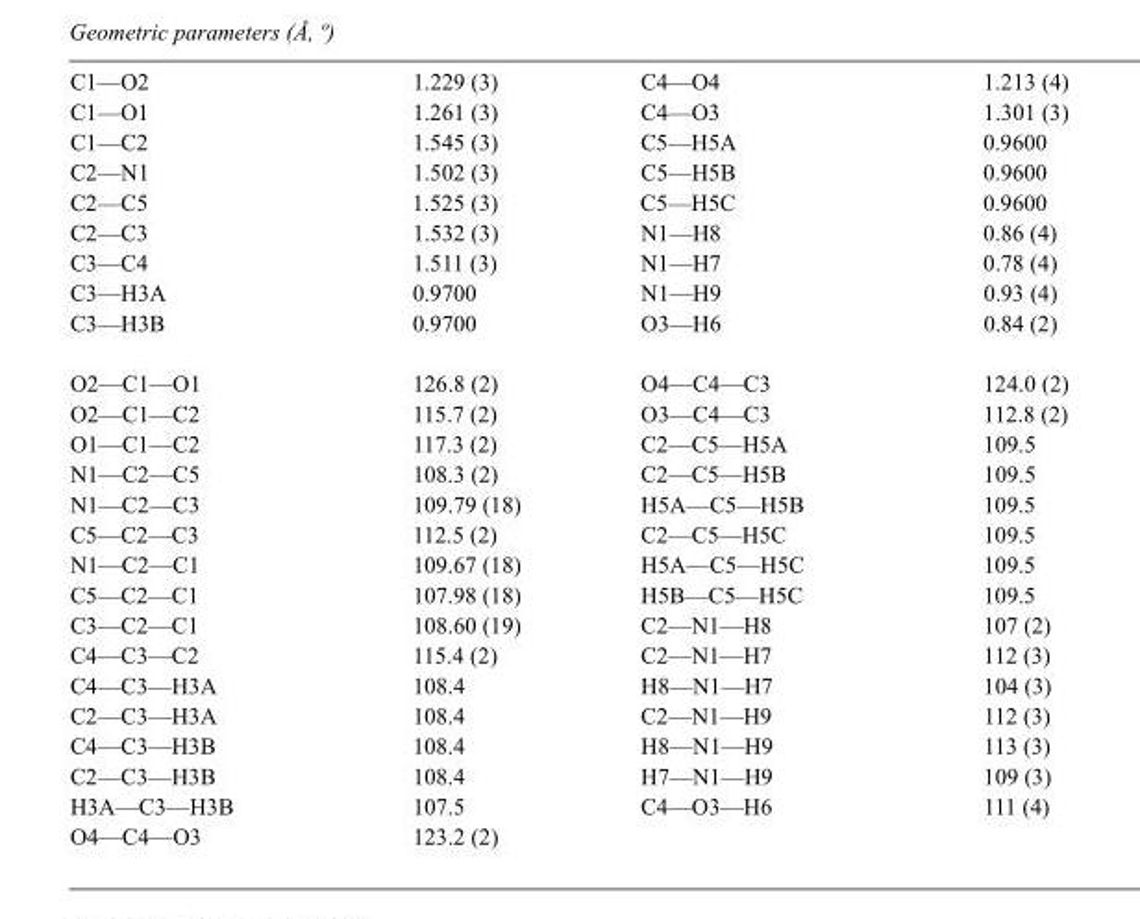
<table><tbody><tr><td>C1—O2</td><td>1.229 (3)</td><td>C4—O4</td><td>1.213 (4)</td></tr><tr><td>C1—O1</td><td>1.261 (3)</td><td>C4—O3</td><td>1.301 (3)</td></tr><tr><td>C1—C2</td><td>1.545 (3)</td><td>C5—H5A</td><td>0.9600</td></tr><tr><td>C2—N1</td><td>1.502 (3)</td><td>C5—H5B</td><td>0.9600</td></tr><tr><td>C2—C5</td><td>1.525 (3)</td><td>C5—H5C</td><td>0.9600</td></tr><tr><td>C2—C3</td><td>1.532 (3)</td><td>N1—H8</td><td>0.86 (4)</td></tr><tr><td>C3—C4</td><td>1.511 (3)</td><td>N1—H7</td><td>0.78 (4)</td></tr><tr><td>C3—H3A</td><td>0.9700</td><td>N1—H9</td><td>0.93 (4)</td></tr><tr><td>C3—H3B</td><td>0.9700</td><td>O3—H6</td><td>0.84 (2)</td></tr><tr><td>O2—C1—O1</td><td>126.8 (2)</td><td>O4—C4—C3</td><td>124.0 (2)</td></tr><tr><td>O2—C1—C2</td><td>115.7 (2)</td><td>O3—C4—C3</td><td>112.8 (2)</td></tr><tr><td>O1—C1—C2</td><td>117.3 (2)</td><td>C2—C5—H5A</td><td>109.5</td></tr><tr><td>N1—C2—C5</td><td>108.3 (2)</td><td>C2—C5—H5B</td><td>109.5</td></tr><tr><td>N1—C2—C3</td><td>109.79 (18)</td><td>H5A—C5—H5B</td><td>109.5</td></tr><tr><td>C5—C2—C3</td><td>112.5 (2)</td><td>C2—C5—H5C</td><td>109.5</td></tr><tr><td>N1—C2—C1</td><td>109.67 (18)</td><td>H5A—C5—H5C</td><td>109.5</td></tr><tr><td>C5—C2—C1</td><td>107.98 (18)</td><td>H5B—C5—H5C</td><td>109.5</td></tr><tr><td>C3—C2—C1</td><td>108.60 (19)</td><td>C2—N1—H8</td><td>107 (2)</td></tr><tr><td>C4—C3—C2</td><td>115.4 (2)</td><td>C2—N1—H7</td><td>112 (3)</td></tr><tr><td>C4—C3—H3A</td><td>108.4</td><td>H8—N1—H7</td><td>104 (3)</td></tr><tr><td>C2—C3—H3A</td><td>108.4</td><td>C2—N1—H9</td><td>112 (3)</td></tr><tr><td>C4—C3—H3B</td><td>108.4</td><td>H8—N1—H9</td><td>113 (3)</td></tr><tr><td>C2—C3—H3B</td><td>108.4</td><td>H7—N1—H9</td><td>109 (3)</td></tr><tr><td>H3A—C3—H3B</td><td>107.5</td><td>C4—O3—H6</td><td>111 (4)</td></tr><tr><td>O4—C4—O3</td><td>123.2 (2)</td><td></td><td></td></tr></tbody></table>